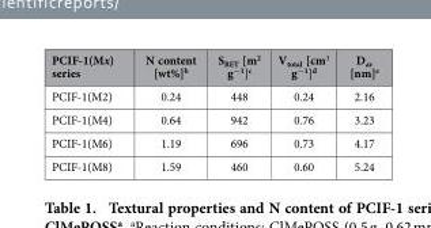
<table><thead><tr><td>PCIF-1(Mx) series</td><td>N content [wt%]<sup>b</sup></td><td>S<sub>BET</sub> [m<sup>2</sup> g<sup>−1</sup>]<sup>c</sup></td><td>V<sub>total</sub> [cm<sup>3</sup> g<sup>−1</sup>]<sup>d</sup></td><td>D<sub>av</sub> [nm]<sup>e</sup></td></tr></thead><tbody><tr><td>PCIF-1(M2)</td><td>0.24</td><td>448</td><td>0.24</td><td>2.16</td></tr><tr><td>PCIF-1(M4)</td><td>0.64</td><td>942</td><td>0.76</td><td>3.23</td></tr><tr><td>PCIF-1(M6)</td><td>1.19</td><td>696</td><td>0.73</td><td>4.17</td></tr><tr><td>PCIF-1(M8)</td><td>1.59</td><td>460</td><td>0.60</td><td>5.24</td></tr></tbody></table>